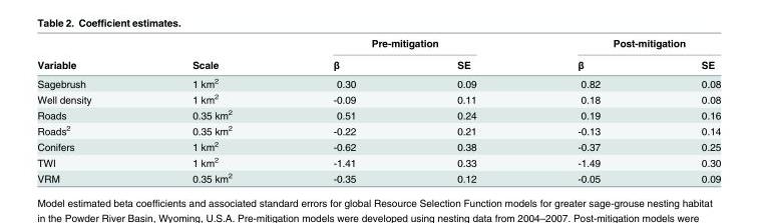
<table><thead><tr><td rowspan="2">Variable</td><td rowspan="2">Scale</td><td colspan="2">Pre-mitigation</td><td colspan="2">Post-mitigation</td></tr><tr><td>β</td><td>SE</td><td>β</td><td>SE</td></tr></thead><tbody><tr><td>Sagebrush</td><td>1 km<sup>2</sup></td><td>0.30</td><td>0.09</td><td>0.82</td><td>0.08</td></tr><tr><td>Well density</td><td>1 km<sup>2</sup></td><td>-0.09</td><td>0.11</td><td>0.18</td><td>0.08</td></tr><tr><td>Roads</td><td>0.35 km<sup>2</sup></td><td>0.51</td><td>0.24</td><td>0.19</td><td>0.16</td></tr><tr><td>Roads<sup>2</sup></td><td>0.35 km<sup>2</sup></td><td>-0.22</td><td>0.21</td><td>-0.13</td><td>0.14</td></tr><tr><td>Conifers</td><td>1 km<sup>2</sup></td><td>-0.62</td><td>0.38</td><td>-0.37</td><td>0.25</td></tr><tr><td>TWI</td><td>1 km<sup>2</sup></td><td>-1.41</td><td>0.33</td><td>-1.49</td><td>0.30</td></tr><tr><td>VRM</td><td>0.35 km<sup>2</sup></td><td>-0.35</td><td>0.12</td><td>-0.05</td><td>0.09</td></tr></tbody></table>